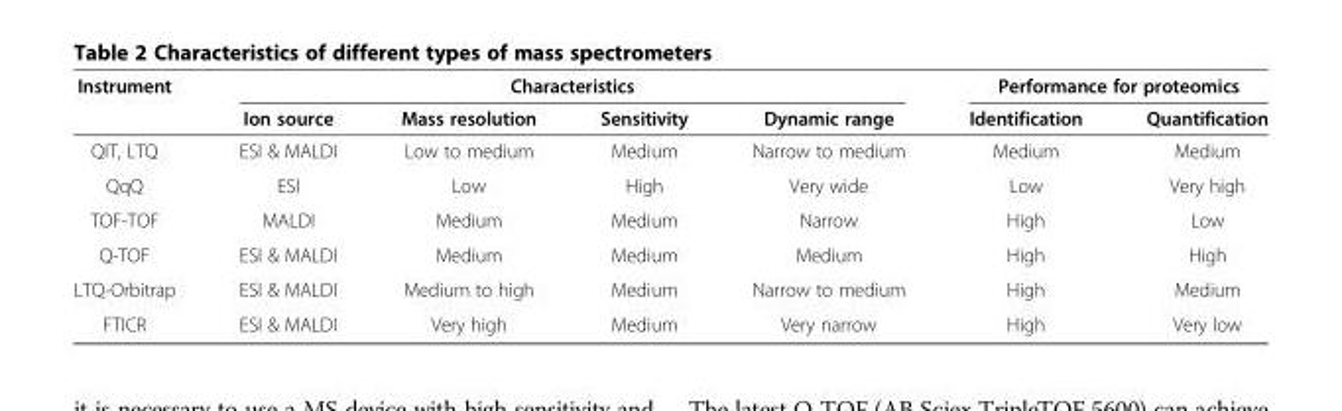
<table><thead><tr><td rowspan="2">Instrument</td><td colspan="4">Characteristics</td><td colspan="2">Performance for proteomics</td></tr><tr><td>Ion source</td><td>Mass resolution</td><td>Sensitivity</td><td>Dynamic range</td><td>Identification</td><td>Quantification</td></tr></thead><tbody><tr><td>QIT, LTQ</td><td>ESI &amp; MALDI</td><td>Low to medium</td><td>Medium</td><td>Narrow to medium</td><td>Medium</td><td>Medium</td></tr><tr><td>QqQ</td><td>ESI</td><td>Low</td><td>High</td><td>Very wide</td><td>Low</td><td>Very high</td></tr><tr><td>TOF-TOF</td><td>MALDI</td><td>Medium</td><td>Medium</td><td>Narrow</td><td>High</td><td>Low</td></tr><tr><td>Q-TOF</td><td>ESI &amp; MALDI</td><td>Medium</td><td>Medium</td><td>Medium</td><td>High</td><td>High</td></tr><tr><td>LTQ-Orbitrap</td><td>ESI &amp; MALDI</td><td>Medium to high</td><td>Medium</td><td>Narrow to medium</td><td>High</td><td>Medium</td></tr><tr><td>FTICR</td><td>ESI &amp; MALDI</td><td>Very high</td><td>Medium</td><td>Very narrow</td><td>High</td><td>Very low</td></tr></tbody></table>